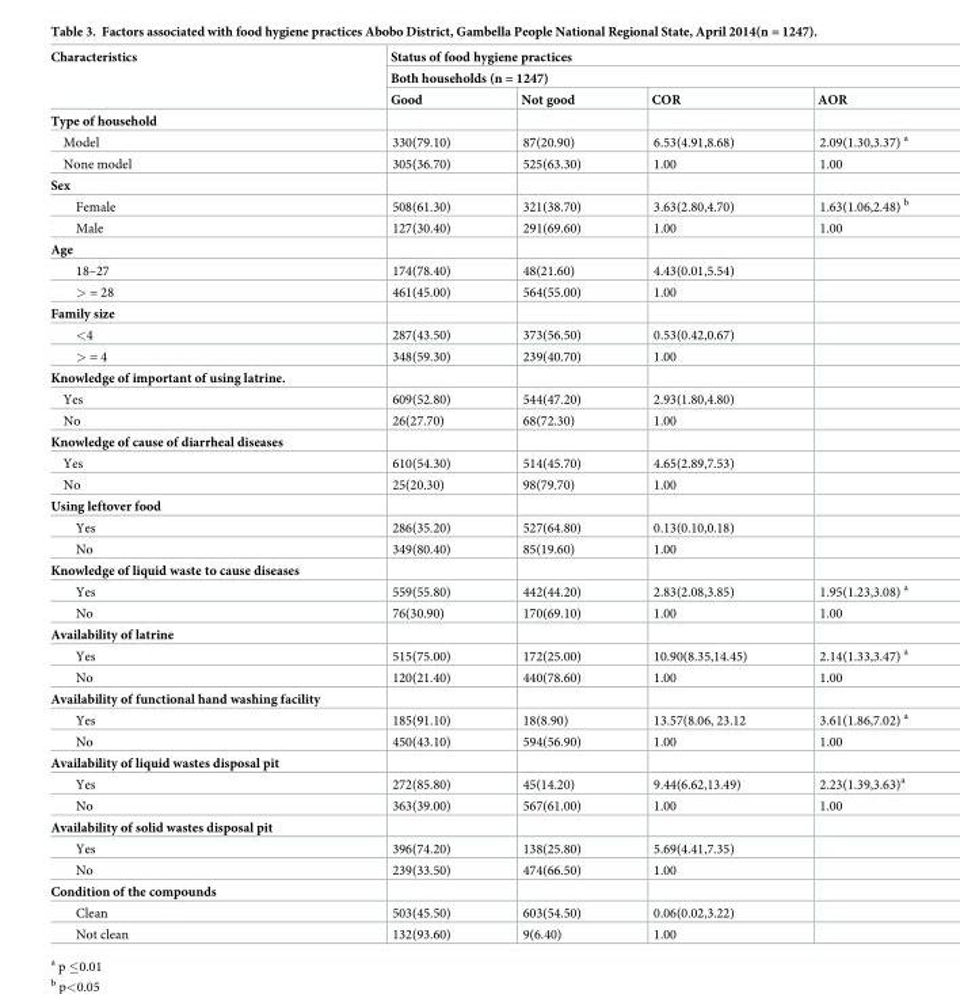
<table><thead><tr><td rowspan="3">Characteristics</td><td rowspan="2" colspan="4">Status of food hygiene practices Both households (n = 1247)</td></tr><tr></tr><tr><td>Good</td><td>Not good</td><td>COR</td><td>AOR</td></tr></thead><tbody><tr><td colspan="5">Type of household</td></tr><tr><td>Model</td><td>330(79.10)</td><td>87(20.90)</td><td>6.53(4.91,8.68)</td><td>2.09(1.30,3.37) <sup>a</sup></td></tr><tr><td>None model</td><td>305(36.70)</td><td>525(63.30)</td><td>1.00</td><td>1.00</td></tr><tr><td colspan="5">Sex</td></tr><tr><td>Female</td><td>508(61.30)</td><td>321(38.70)</td><td>3.63(2.80,4.70)</td><td>1.63(1.06,2.48) <sup>b</sup></td></tr><tr><td>Male</td><td>127(30.40)</td><td>291(69.60)</td><td>1.00</td><td>1.00</td></tr><tr><td colspan="5">Age</td></tr><tr><td>18–27</td><td>174(78.40)</td><td>48(21.60)</td><td>4.43(0.01,5.54)</td><td></td></tr><tr><td>&gt; = 28</td><td>461(45.00)</td><td>564(55.00)</td><td>1.00</td><td></td></tr><tr><td colspan="5">Family size</td></tr><tr><td>&lt;4</td><td>287(43.50)</td><td>373(56.50)</td><td>0.53(0.42,0.67)</td><td></td></tr><tr><td>&gt; = 4</td><td>348(59.30)</td><td>239(40.70)</td><td>1.00</td><td></td></tr><tr><td colspan="5">Knowledge of important of using latrine.</td></tr><tr><td>Yes</td><td>609(52.80)</td><td>544(47.20)</td><td>2.93(1.80,4.80)</td><td></td></tr><tr><td>No</td><td>26(27.70)</td><td>68(72.30)</td><td>1.00</td><td></td></tr><tr><td colspan="5">Knowledge of cause of diarrheal diseases</td></tr><tr><td>Yes</td><td>610(54.30)</td><td>514(45.70)</td><td>4.65(2.89,7.53)</td><td></td></tr><tr><td>No</td><td>25(20.30)</td><td>98(79.70)</td><td>1.00</td><td></td></tr><tr><td colspan="5">Using leftover food</td></tr><tr><td>Yes</td><td>286(35.20)</td><td>527(64.80)</td><td>0.13(0.10,0.18)</td><td></td></tr><tr><td>No</td><td>349(80.40)</td><td>85(19.60)</td><td>1.00</td><td></td></tr><tr><td colspan="5">Knowledge of liquid waste to cause diseases</td></tr><tr><td>Yes</td><td>559(55.80)</td><td>442(44.20)</td><td>2.83(2.08,3.85)</td><td>1.95(1.23,3.08) <sup>a</sup></td></tr><tr><td>No</td><td>76(30.90)</td><td>170(69.10)</td><td>1.00</td><td>1.00</td></tr><tr><td colspan="5">Availability of latrine</td></tr><tr><td>Yes</td><td>515(75.00)</td><td>172(25.00)</td><td>10.90(8.35,14.45)</td><td>2.14(1.33,3.47) <sup>a</sup></td></tr><tr><td>No</td><td>120(21.40)</td><td>440(78.60)</td><td>1.00</td><td>1.00</td></tr><tr><td colspan="5">Availability of functional hand washing facility</td></tr><tr><td>Yes</td><td>185(91.10)</td><td>18(8.90)</td><td>13.57(8.06, 23.12</td><td>3.61(1.86,7.02) <sup>a</sup></td></tr><tr><td>No</td><td>450(43.10)</td><td>594(56.90)</td><td>1.00</td><td>1.00</td></tr><tr><td colspan="5">Availability of liquid wastes disposal pit</td></tr><tr><td>Yes</td><td>272(85.80)</td><td>45(14.20)</td><td>9.44(6.62,13.49)</td><td>2.23(1.39,3.63)<sup>a</sup></td></tr><tr><td>No</td><td>363(39.00)</td><td>567(61.00)</td><td>1.00</td><td>1.00</td></tr><tr><td colspan="5">Availability of solid wastes disposal pit</td></tr><tr><td>Yes</td><td>396(74.20)</td><td>138(25.80)</td><td>5.69(4.41,7.35)</td><td></td></tr><tr><td>No</td><td>239(33.50)</td><td>474(66.50)</td><td>1.00</td><td></td></tr><tr><td colspan="5">Condition of the compounds</td></tr><tr><td>Clean</td><td>503(45.50)</td><td>603(54.50)</td><td>0.06(0.02,3.22)</td><td></td></tr><tr><td>Not clean</td><td>132(93.60)</td><td>9(6.40)</td><td>1.00</td><td></td></tr></tbody></table>